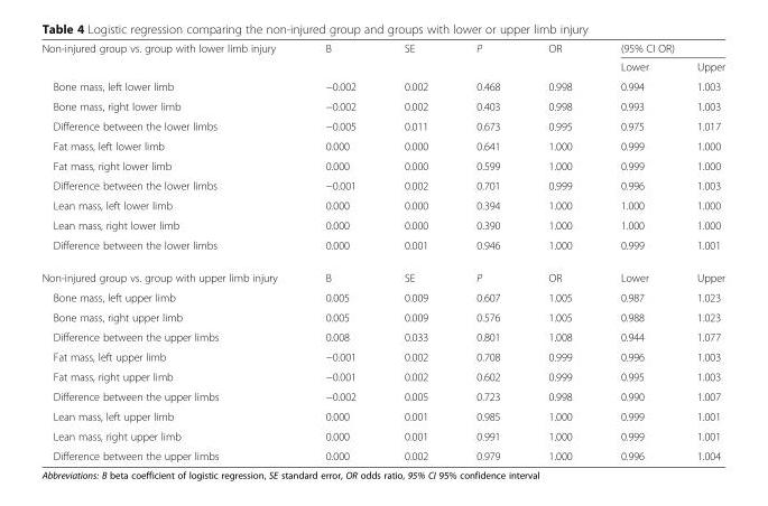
<table><tbody><tr><td rowspan="2">Non-injured group vs. group with lower limb injury</td><td rowspan="2">B</td><td rowspan="2">SE</td><td rowspan="2">P</td><td rowspan="2">OR</td><td colspan="2">(95% CI OR)</td></tr><tr><td>Lower</td><td>Upper</td></tr><tr><td>Bone mass, left lower limb</td><td>−0.002</td><td>0.002</td><td>0.468</td><td>0.998</td><td>0.994</td><td>1.003</td></tr><tr><td>Bone mass, right lower limb</td><td>−0.002</td><td>0.002</td><td>0.403</td><td>0.998</td><td>0.993</td><td>1.003</td></tr><tr><td>Difference between the lower limbs</td><td>−0.005</td><td>0.011</td><td>0.673</td><td>0.995</td><td>0.975</td><td>1.017</td></tr><tr><td>Fat mass, left lower limb</td><td>0.000</td><td>0.000</td><td>0.641</td><td>1.000</td><td>0.999</td><td>1.000</td></tr><tr><td>Fat mass, right lower limb</td><td>0.000</td><td>0.000</td><td>0.599</td><td>1.000</td><td>0.999</td><td>1.000</td></tr><tr><td>Difference between the lower limbs</td><td>−0.001</td><td>0.002</td><td>0.701</td><td>0.999</td><td>0.996</td><td>1.003</td></tr><tr><td>Lean mass, left lower limb</td><td>0.000</td><td>0.000</td><td>0.394</td><td>1.000</td><td>1.000</td><td>1.000</td></tr><tr><td>Lean mass, right lower limb</td><td>0.000</td><td>0.000</td><td>0.390</td><td>1.000</td><td>1.000</td><td>1.000</td></tr><tr><td>Difference between the lower limbs</td><td>0.000</td><td>0.001</td><td>0.946</td><td>1.000</td><td>0.999</td><td>1.001</td></tr><tr><td>Non-injured group vs. group with upper limb injury</td><td>B</td><td>SE</td><td>P</td><td>OR</td><td>Lower</td><td>Upper</td></tr><tr><td>Bone mass, left upper limb</td><td>0.005</td><td>0.009</td><td>0.607</td><td>1.005</td><td>0.987</td><td>1.023</td></tr><tr><td>Bone mass, right upper limb</td><td>0.005</td><td>0.009</td><td>0.576</td><td>1.005</td><td>0.988</td><td>1.023</td></tr><tr><td>Difference between the upper limbs</td><td>0.008</td><td>0.033</td><td>0.801</td><td>1.008</td><td>0.944</td><td>1.077</td></tr><tr><td>Fat mass, left upper limb</td><td>−0.001</td><td>0.002</td><td>0.708</td><td>0.999</td><td>0.996</td><td>1.003</td></tr><tr><td>Fat mass, right upper limb</td><td>−0.001</td><td>0.002</td><td>0.602</td><td>0.999</td><td>0.995</td><td>1.003</td></tr><tr><td>Difference between the upper limbs</td><td>−0.002</td><td>0.005</td><td>0.723</td><td>0.998</td><td>0.990</td><td>1.007</td></tr><tr><td>Lean mass, left upper limb</td><td>0.000</td><td>0.001</td><td>0.985</td><td>1.000</td><td>0.999</td><td>1.001</td></tr><tr><td>Lean mass, right upper limb</td><td>0.000</td><td>0.001</td><td>0.991</td><td>1.000</td><td>0.999</td><td>1.001</td></tr><tr><td>Difference between the upper limbs</td><td>0.000</td><td>0.002</td><td>0.979</td><td>1.000</td><td>0.996</td><td>1.004</td></tr></tbody></table>